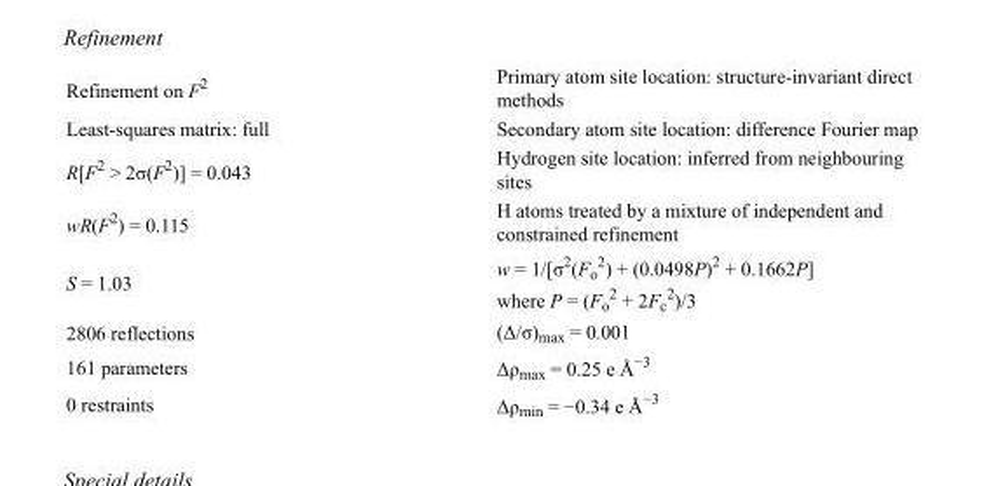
<table><tbody><tr><td>Refinement on F<sup>2</sup></td><td>Primary atom site location: structure-invariant direct methods</td></tr><tr><td>Least-squares matrix: full</td><td>Secondary atom site location: difference Fourier map</td></tr><tr><td>R[F<sup>2</sup> &gt; 2σ(F<sup>2</sup>)] = 0.043</td><td>Hydrogen site location: inferred from neighbouring sites</td></tr><tr><td>wR(F<sup>2</sup>) = 0.115</td><td>H atoms treated by a mixture of independent and constrained refinement</td></tr><tr><td>S = 1.03</td><td>w = 1/[σ<sup>2</sup>(F<sub>o</sub> <sup>2</sup>) + (0.0498P)<sup>2</sup> + 0.1662P] where P = (F<sub>o</sub> <sup>2</sup> + 2F<sub>c</sub> <sup>2</sup>)/3</td></tr><tr><td>2806 reflections</td><td>(Δ/σ)<sub>max</sub> = 0.001</td></tr><tr><td>161 parameters</td><td>Δρ<sub>max</sub> = 0.25 e Å<sup>−3</sup></td></tr><tr><td>0 restraints</td><td>Δρ<sub>min</sub> = −0.34 e Å<sup>−3</sup></td></tr></tbody></table>